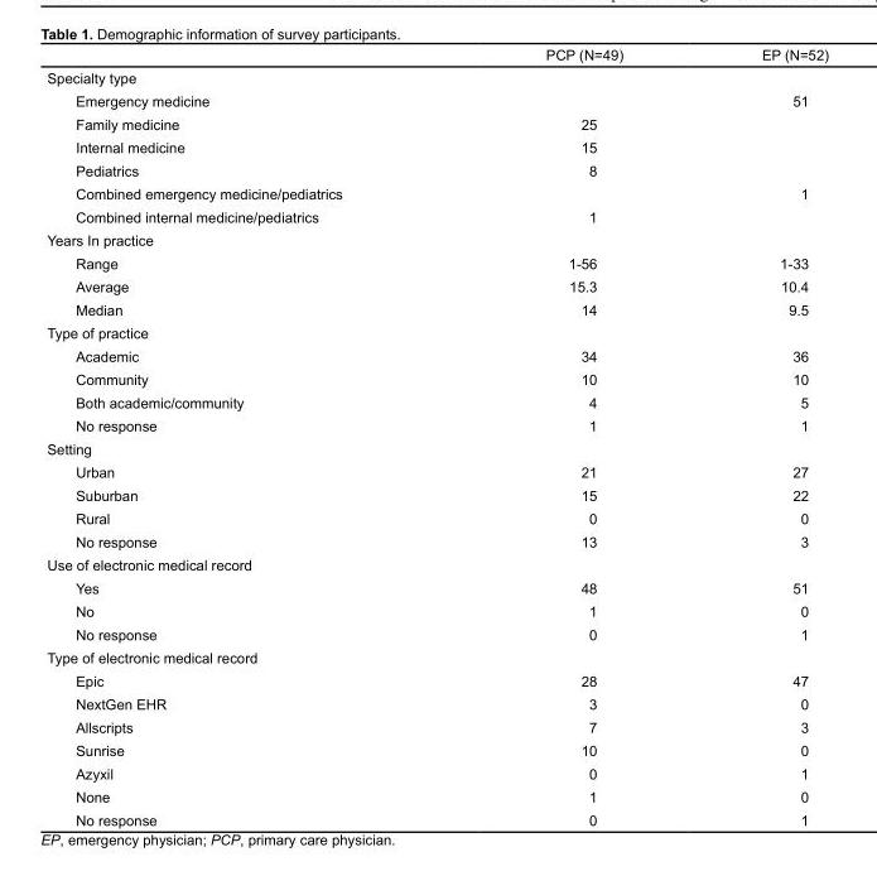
<table><thead><tr><td></td><td>PCP (N=49)</td><td>EP (N=52)</td></tr></thead><tbody><tr><td colspan="3">Specialty type</td></tr><tr><td>Emergency medicine</td><td></td><td>51</td></tr><tr><td>Family medicine</td><td>25</td><td></td></tr><tr><td>Internal medicine</td><td>15</td><td></td></tr><tr><td>Pediatrics</td><td>8</td><td></td></tr><tr><td>Combined emergency medicine/pediatrics</td><td></td><td>1</td></tr><tr><td>Combined internal medicine/pediatrics</td><td>1</td><td></td></tr><tr><td colspan="3">Years In practice</td></tr><tr><td>Range</td><td>1-56</td><td>1-33</td></tr><tr><td>Average</td><td>15.3</td><td>10.4</td></tr><tr><td>Median</td><td>14</td><td>9.5</td></tr><tr><td colspan="3">Type of practice</td></tr><tr><td>Academic</td><td>34</td><td>36</td></tr><tr><td>Community</td><td>10</td><td>10</td></tr><tr><td>Both academic/community</td><td>4</td><td>5</td></tr><tr><td>No response</td><td>1</td><td>1</td></tr><tr><td colspan="3">Setting</td></tr><tr><td>Urban</td><td>21</td><td>27</td></tr><tr><td>Suburban</td><td>15</td><td>22</td></tr><tr><td>Rural</td><td>0</td><td>0</td></tr><tr><td>No response</td><td>13</td><td>3</td></tr><tr><td colspan="3">Use of electronic medical record</td></tr><tr><td>Yes</td><td>48</td><td>51</td></tr><tr><td>No</td><td>1</td><td>0</td></tr><tr><td>No response</td><td>0</td><td>1</td></tr><tr><td colspan="3">Type of electronic medical record</td></tr><tr><td>Epic</td><td>28</td><td>47</td></tr><tr><td>NextGen EHR</td><td>3</td><td>0</td></tr><tr><td>Allscripts</td><td>7</td><td>3</td></tr><tr><td>Sunrise</td><td>10</td><td>0</td></tr><tr><td>Azyxil</td><td>0</td><td>1</td></tr><tr><td>None</td><td>1</td><td>0</td></tr><tr><td>No response</td><td>0</td><td>1</td></tr></tbody></table>